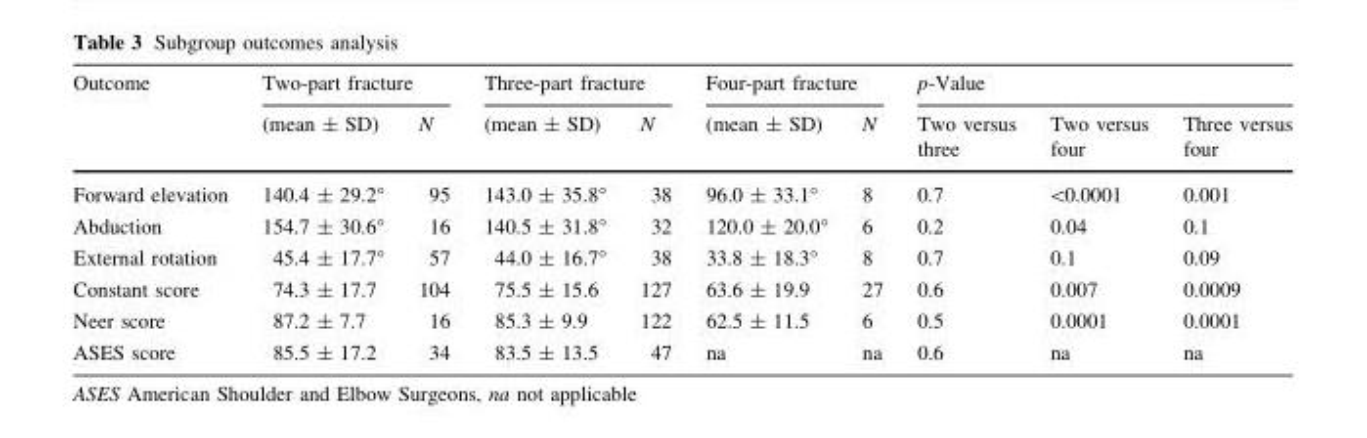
<table><thead><tr><td rowspan="2">Outcome</td><td colspan="2">Two-part fracture</td><td colspan="2">Three-part fracture</td><td colspan="2">Four-part fracture</td><td colspan="3">p-Value</td></tr><tr><td>(mean ± SD)</td><td>N</td><td>(mean ± SD)</td><td>N</td><td>(mean ± SD)</td><td>N</td><td>Two versus three</td><td>Two versus four</td><td>Three versus four</td></tr></thead><tbody><tr><td>Forward elevation</td><td>140.4 ± 29.2°</td><td>95</td><td>143.0 ± 35.8°</td><td>38</td><td>96.0 ± 33.1°</td><td>8</td><td>0.7</td><td>&lt;0.0001</td><td>0.001</td></tr><tr><td>Abduction</td><td>154.7 ± 30.6°</td><td>16</td><td>140.5 ± 31.8°</td><td>32</td><td>120.0 ± 20.0°</td><td>6</td><td>0.2</td><td>0.04</td><td>0.1</td></tr><tr><td>External rotation</td><td>45.4 ± 17.7°</td><td>57</td><td>44.0 ± 16.7°</td><td>38</td><td>33.8 ± 18.3°</td><td>8</td><td>0.7</td><td>0.1</td><td>0.09</td></tr><tr><td>Constant score</td><td>74.3 ± 17.7</td><td>104</td><td>75.5 ± 15.6</td><td>127</td><td>63.6 ± 19.9</td><td>27</td><td>0.6</td><td>0.007</td><td>0.0009</td></tr><tr><td>Neer score</td><td>87.2 ± 7.7</td><td>16</td><td>85.3 ± 9.9</td><td>122</td><td>62.5 ± 11.5</td><td>6</td><td>0.5</td><td>0.0001</td><td>0.0001</td></tr><tr><td>ASES score</td><td>85.5 ± 17.2</td><td>34</td><td>83.5 ± 13.5</td><td>47</td><td>na</td><td>na</td><td>0.6</td><td>na</td><td>na</td></tr></tbody></table>